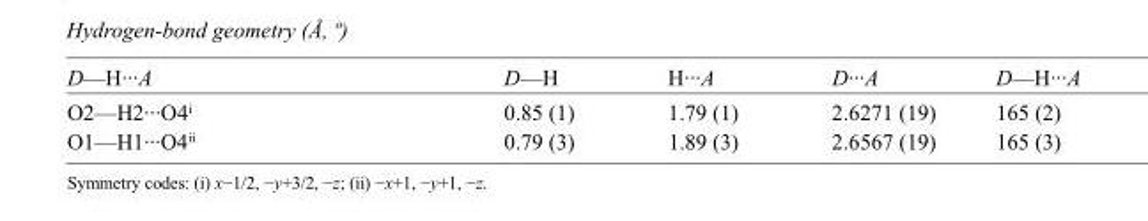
<table><tbody><tr><td>D—H···A</td><td>D—H</td><td>H···A</td><td>D···A</td><td>D—H···A</td></tr><tr><td>O2—H2···O4<sup>i</sup></td><td>0.85 (1)</td><td>1.79 (1)</td><td>2.6271 (19)</td><td>165 (2)</td></tr><tr><td>O1—H1···O4<sup>ii</sup></td><td>0.79 (3)</td><td>1.89 (3)</td><td>2.6567 (19)</td><td>165 (3)</td></tr></tbody></table>